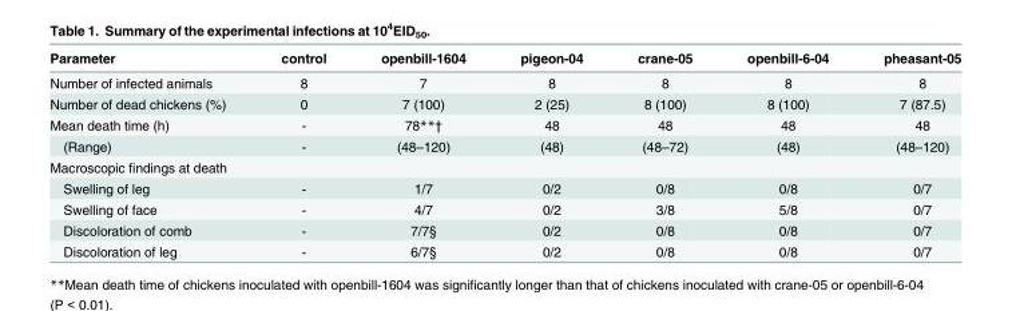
<table><thead><tr><td>Parameter</td><td>control</td><td>openbill-1604</td><td>pigeon-04</td><td>crane-05</td><td>openbill-6-04</td><td>pheasant-05</td></tr></thead><tbody><tr><td>Number of infected animals</td><td>8</td><td>7</td><td>8</td><td>8</td><td>8</td><td>8</td></tr><tr><td>Number of dead chickens (%)</td><td>0</td><td>7 (100)</td><td>2 (25)</td><td>8 (100)</td><td>8 (100)</td><td>7 (87.5)</td></tr><tr><td>Mean death time (h)</td><td>-</td><td>78**†</td><td>48</td><td>48</td><td>48</td><td>48</td></tr><tr><td>(Range)</td><td>-</td><td>(48–120)</td><td>(48)</td><td>(48–72)</td><td>(48)</td><td>(48–120)</td></tr><tr><td colspan="7">Macroscopic findings at death</td></tr><tr><td>Swelling of leg</td><td>-</td><td>1/7</td><td>0/2</td><td>0/8</td><td>0/8</td><td>0/7</td></tr><tr><td>Swelling of face</td><td>-</td><td>4/7</td><td>0/2</td><td>3/8</td><td>5/8</td><td>0/7</td></tr><tr><td>Discoloration of comb</td><td>-</td><td>7/7§</td><td>0/2</td><td>0/8</td><td>0/8</td><td>0/7</td></tr><tr><td>Discoloration of leg</td><td>-</td><td>6/7§</td><td>0/2</td><td>0/8</td><td>0/8</td><td>0/7</td></tr></tbody></table>